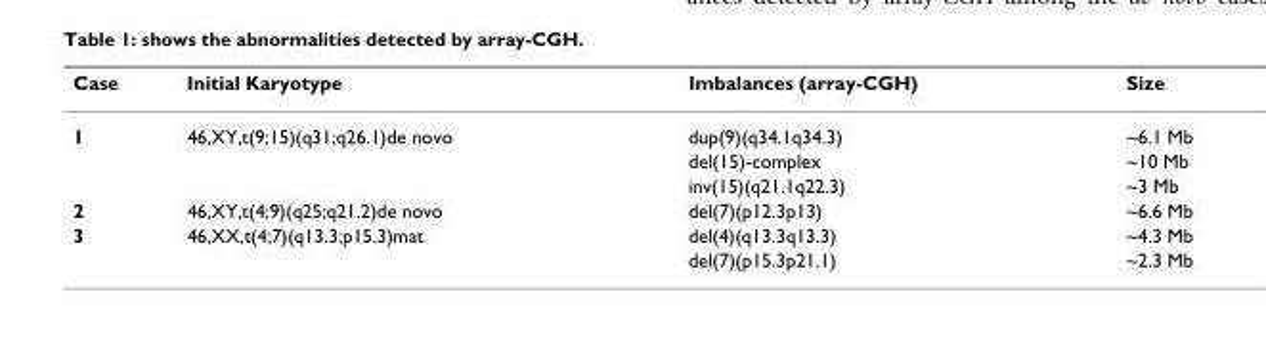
<table><thead><tr><td>Case</td><td>Initial Karyotype</td><td>Imbalances (array-CGH)</td><td>Size</td></tr></thead><tbody><tr><td rowspan="3">1</td><td>46,XY,t(9;15)(q31;q26.1)de novo</td><td>dup(9)(q34.1q34.3)</td><td>~6.1 Mb</td></tr><tr><td></td><td>del(15)-complex</td><td>~10 Mb</td></tr><tr><td></td><td>inv(15)(q21.1q22.3)</td><td>~3 Mb</td></tr><tr><td>2</td><td>46,XY,t(4;9)(q25;q21.2)de novo</td><td>del(7)(p12.3p13)</td><td>~6.6 Mb</td></tr><tr><td rowspan="2">3</td><td>46,XX,t(4;7)(q13.3;p15.3)mat</td><td>del(4)(q13.3q13.3)</td><td>~4.3 Mb</td></tr><tr><td></td><td>del(7)(p15.3p21.1)</td><td>~2.3 Mb</td></tr></tbody></table>